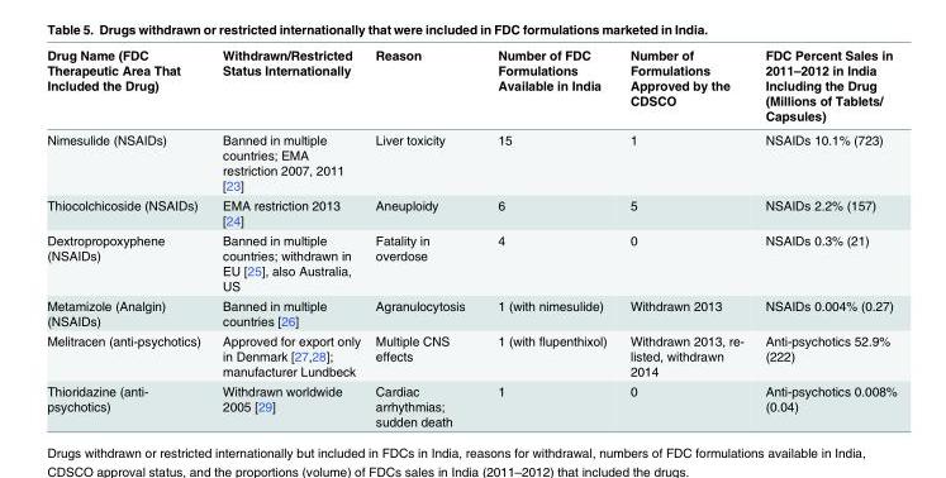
<table><thead><tr><td>Drug Name (FDC Therapeutic Area That Included the Drug)</td><td>Withdrawn/Restricted Status Internationally</td><td>Reason</td><td>Number of FDC Formulations Available in India</td><td>Number of Formulations Approved by the CDSCO</td><td>FDC Percent Sales in 2011–2012 in India Including the Drug (Millions of Tablets/ Capsules)</td></tr></thead><tbody><tr><td>Nimesulide (NSAIDs)</td><td>Banned in multiple countries; EMA restriction 2007, 2011 [23]</td><td>Liver toxicity</td><td>15</td><td>1</td><td>NSAIDs 10.1% (723)</td></tr><tr><td>Thiocolchicoside (NSAIDs)</td><td>EMA restriction 2013 [24]</td><td>Aneuploidy</td><td>6</td><td>5</td><td>NSAIDs 2.2% (157)</td></tr><tr><td>Dextropropoxyphene (NSAIDs)</td><td>Banned in multiple countries; withdrawn in EU [25], also Australia, US</td><td>Fatality in overdose</td><td>4</td><td>0</td><td>NSAIDs 0.3% (21)</td></tr><tr><td>Metamizole (Analgin) (NSAIDs)</td><td>Banned in multiple countries [26]</td><td>Agranulocytosis</td><td>1 (with nimesulide)</td><td>Withdrawn 2013</td><td>NSAIDs 0.004% (0.27)</td></tr><tr><td>Melitracen (anti-psychotics)</td><td>Approved for export only in Denmark [27,28]; manufacturer Lundbeck</td><td>Multiple CNS effects</td><td>1 (with flupenthixol)</td><td>Withdrawn 2013, re- listed, withdrawn 2014</td><td>Anti-psychotics 52.9% (222)</td></tr><tr><td>Thioridazine (anti- psychotics)</td><td>Withdrawn worldwide 2005 [29]</td><td>Cardiac arrhythmias; sudden death</td><td>1</td><td>0</td><td>Anti-psychotics 0.008% (0.04)</td></tr></tbody></table>